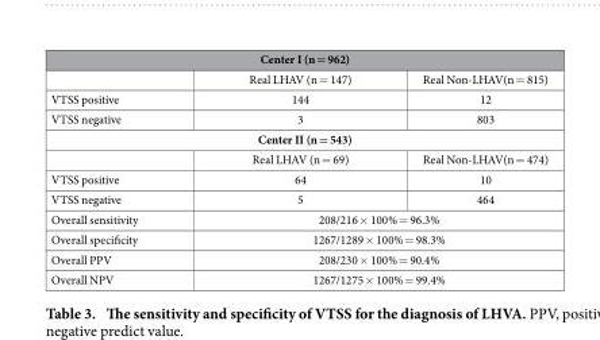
<table><thead><tr><td colspan="3">Center I (n = 962)</td></tr><tr><td></td><td>Real LHAV (n = 147)</td><td>Real Non-LHAV(n = 815)</td></tr></thead><tbody><tr><td>VTSS positive</td><td>144</td><td>12</td></tr><tr><td>VTSS negative</td><td>3</td><td>803</td></tr><tr><td colspan="3">Center II (n = 543)</td></tr><tr><td></td><td>Real LHAV (n = 69)</td><td>Real Non-LHAV(n = 474)</td></tr><tr><td>VTSS positive</td><td>64</td><td>10</td></tr><tr><td>VTSS negative</td><td>5</td><td>464</td></tr><tr><td>Overall sensitivity</td><td colspan="2">208/216 × 100% = 96.3%</td></tr><tr><td>Overall specificity</td><td colspan="2">1267/1289 × 100% = 98.3%</td></tr><tr><td>Overall PPV</td><td colspan="2">208/230 × 100% = 90.4%</td></tr><tr><td>Overall NPV</td><td colspan="2">1267/1275 × 100% = 99.4%</td></tr></tbody></table>